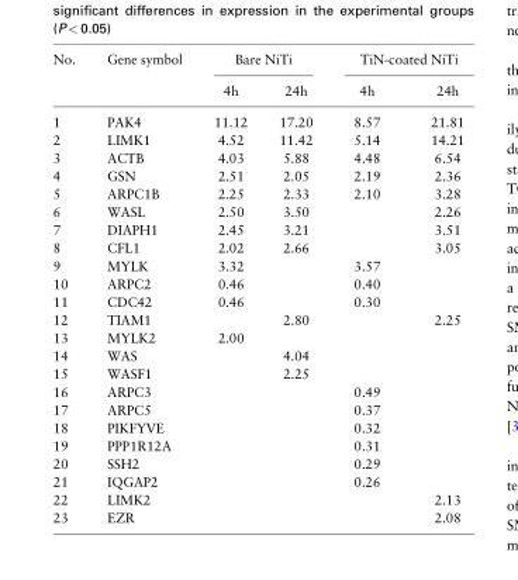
<table><thead><tr><td rowspan="2">No.</td><td rowspan="2">Gene symbol</td><td colspan="2">Bare NiTi</td><td colspan="2">TiN-coated NiTi</td></tr><tr><td>4h</td><td>24h</td><td>4h</td><td>24h</td></tr></thead><tbody><tr><td>1</td><td>PAK4</td><td>11.12</td><td>17.20</td><td>8.57</td><td>21.81</td></tr><tr><td>2</td><td>LIMK1</td><td>4.52</td><td>11.42</td><td>5.14</td><td>14.21</td></tr><tr><td>3</td><td>ACTB</td><td>4.03</td><td>5.88</td><td>4.48</td><td>6.54</td></tr><tr><td>4</td><td>GSN</td><td>2.51</td><td>2.05</td><td>2.19</td><td>2.36</td></tr><tr><td>5</td><td>ARPC1B</td><td>2.25</td><td>2.33</td><td>2.10</td><td>3.28</td></tr><tr><td>6</td><td>WASL</td><td>2.50</td><td>3.50</td><td></td><td>2.26</td></tr><tr><td>7</td><td>DIAPH1</td><td>2.45</td><td>3.21</td><td></td><td>3.51</td></tr><tr><td>8</td><td>CFL1</td><td>2.02</td><td>2.66</td><td></td><td>3.05</td></tr><tr><td>9</td><td>MYLK</td><td>3.32</td><td></td><td>3.57</td><td></td></tr><tr><td>10</td><td>ARPC2</td><td>0.46</td><td></td><td>0.40</td><td></td></tr><tr><td>11</td><td>CDC42</td><td>0.46</td><td></td><td>0.30</td><td></td></tr><tr><td>12</td><td>TIAM1</td><td></td><td>2.80</td><td></td><td>2.25</td></tr><tr><td>13</td><td>MYLK2</td><td>2.00</td><td></td><td></td><td></td></tr><tr><td>14</td><td>WAS</td><td></td><td>4.04</td><td></td><td></td></tr><tr><td>15</td><td>WASF1</td><td></td><td>2.25</td><td></td><td></td></tr><tr><td>16</td><td>ARPC3</td><td></td><td></td><td>0.49</td><td></td></tr><tr><td>17</td><td>ARPC5</td><td></td><td></td><td>0.37</td><td></td></tr><tr><td>18</td><td>PIKFYVE</td><td></td><td></td><td>0.32</td><td></td></tr><tr><td>19</td><td>PPP1R12A</td><td></td><td></td><td>0.31</td><td></td></tr><tr><td>20</td><td>SSH2</td><td></td><td></td><td>0.29</td><td></td></tr><tr><td>21</td><td>IQGAP2</td><td></td><td></td><td>0.26</td><td></td></tr><tr><td>22</td><td>LIMK2</td><td></td><td></td><td></td><td>2.13</td></tr><tr><td>23</td><td>EZR</td><td></td><td></td><td></td><td>2.08</td></tr></tbody></table>